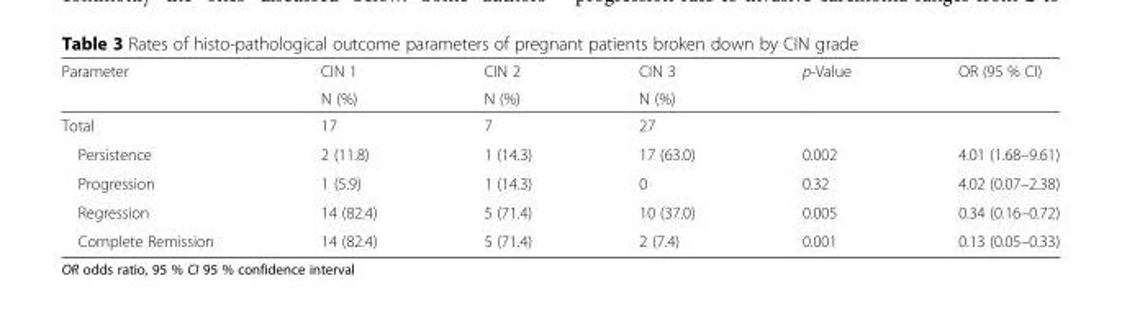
<table><thead><tr><td rowspan="2">Parameter</td><td rowspan="2">CIN 1 N (%)</td><td rowspan="2">CIN 2 N (%)</td><td rowspan="2">CIN 3 N (%)</td><td rowspan="2">p-Value</td><td rowspan="2">OR (95 % CI)</td></tr><tr></tr></thead><tbody><tr><td>Total</td><td>17</td><td>7</td><td>27</td><td></td><td></td></tr><tr><td>Persistence</td><td>2 (11.8)</td><td>1 (14.3)</td><td>17 (63.0)</td><td>0.002</td><td>4.01 (1.68–9.61)</td></tr><tr><td>Progression</td><td>1 (5.9)</td><td>1 (14.3)</td><td>0</td><td>0.32</td><td>4.02 (0.07–2.38)</td></tr><tr><td>Regression</td><td>14 (82.4)</td><td>5 (71.4)</td><td>10 (37.0)</td><td>0.005</td><td>0.34 (0.16–0.72)</td></tr><tr><td>Complete Remission</td><td>14 (82.4)</td><td>5 (71.4)</td><td>2 (7.4)</td><td>0.001</td><td>0.13 (0.05–0.33)</td></tr></tbody></table>